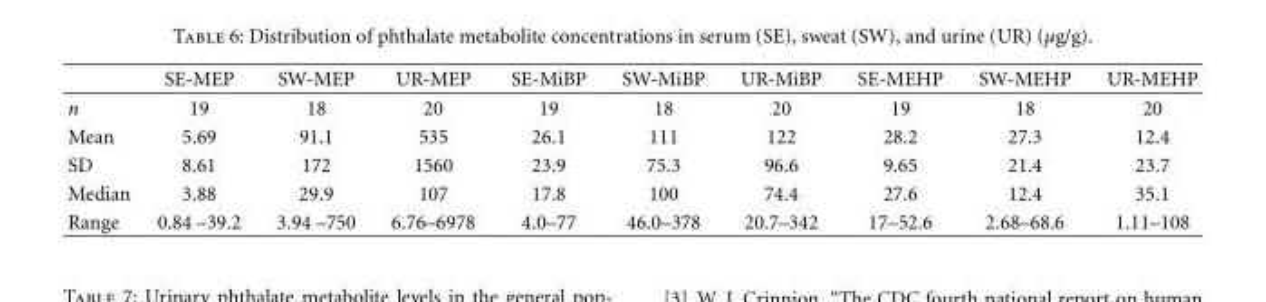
<table><thead><tr><td></td><td>SE-MEP</td><td>SW-MEP</td><td>UR-MEP</td><td>SE-MiBP</td><td>SW-MiBP</td><td>UR-MiBP</td><td>SE-MEHP</td><td>SW-MEHP</td><td>UR-MEHP</td></tr></thead><tbody><tr><td>n</td><td>19</td><td>18</td><td>20</td><td>19</td><td>18</td><td>20</td><td>19</td><td>18</td><td>20</td></tr><tr><td>Mean</td><td>5.69</td><td>91.1</td><td>535</td><td>26.1</td><td>111</td><td>122</td><td>28.2</td><td>27.3</td><td>12.4</td></tr><tr><td>SD</td><td>8.61</td><td>172</td><td>1560</td><td>23.9</td><td>75.3</td><td>96.6</td><td>9.65</td><td>21.4</td><td>23.7</td></tr><tr><td>Median</td><td>3.88</td><td>29.9</td><td>107</td><td>17.8</td><td>100</td><td>74.4</td><td>27.6</td><td>12.4</td><td>35.1</td></tr><tr><td>Range</td><td>0.84 –39.2</td><td>3.94 –750</td><td>6.76–6978</td><td>4.0–77</td><td>46.0–378</td><td>20.7–342</td><td>17–52.6</td><td>2.68–68.6</td><td>1.11–108</td></tr></tbody></table>